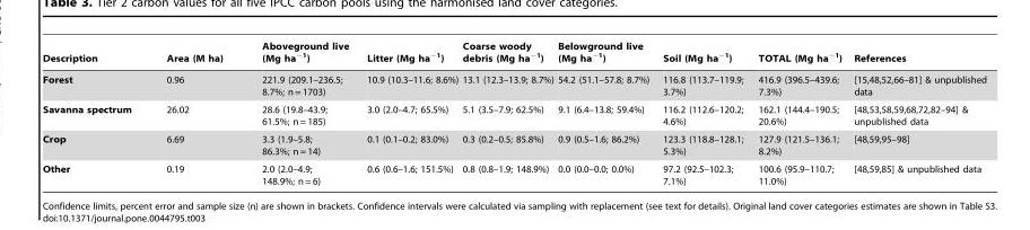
<table><thead><tr><td>Description</td><td>Area (M ha)</td><td>Aboveground live (Mg ha<sup>−1</sup>)</td><td>Litter (Mg ha<sup>−1</sup>)</td><td>Coarse woody debris (Mg ha<sup>−1</sup>)</td><td>Belowground live (Mg ha<sup>−1</sup>)</td><td>Soil (Mg ha<sup>−1</sup>)</td><td>TOTAL (Mg ha<sup>−1</sup>)</td><td>References</td></tr></thead><tbody><tr><td>Forest</td><td>0.96</td><td>221.9 (209.1–236.5; 8.7%; n = 1703)</td><td>10.9 (10.3–11.6; 8.6%)</td><td>13.1 (12.3–13.9; 8.7%)</td><td>54.2 (51.1–57.8; 8.7%)</td><td>116.8 (113.7–119.9; 3.7%)</td><td>416.9 (396.5–439.6; 7.3%)</td><td>[15,48,52,66–81] &amp; unpublished data</td></tr><tr><td>Savanna spectrum</td><td>26.02</td><td>28.6 (19.8–43.9; 61.5%; n = 185)</td><td>3.0 (2.0–4.7; 65.5%)</td><td>5.1 (3.5–7.9; 62.5%)</td><td>9.1 (6.4–13.8; 59.4%)</td><td>116.2 (112.6–120.2; 4.6%)</td><td>162.1 (144.4–190.5; 20.6%)</td><td>[48,53,58,59,68,72,82–94] &amp; unpublished data</td></tr><tr><td>Crop</td><td>6.69</td><td>3.3 (1.9–5.8; 86.3%; n = 14)</td><td>0.1 (0.1–0.2; 83.0%)</td><td>0.3 (0.2–0.5; 85.8%)</td><td>0.9 (0.5–1.6; 86.2%)</td><td>123.3 (118.8–128.1; 5.3%)</td><td>127.9 (121.5–136.1; 8.2%)</td><td>[48,59,95–98]</td></tr><tr><td>Other</td><td>0.19</td><td>2.0 (2.0–4.9; 148.9%; n = 6)</td><td>0.6 (0.6–1.6; 151.5%)</td><td>0.8 (0.8–1.9; 148.9%)</td><td>0.0 (0.0–0.0; 0.0%)</td><td>97.2 (92.5–102.3; 7.1%)</td><td>100.6 (95.9–110.7; 11.0%)</td><td>[48,59,85] &amp; unpublished data</td></tr></tbody></table>